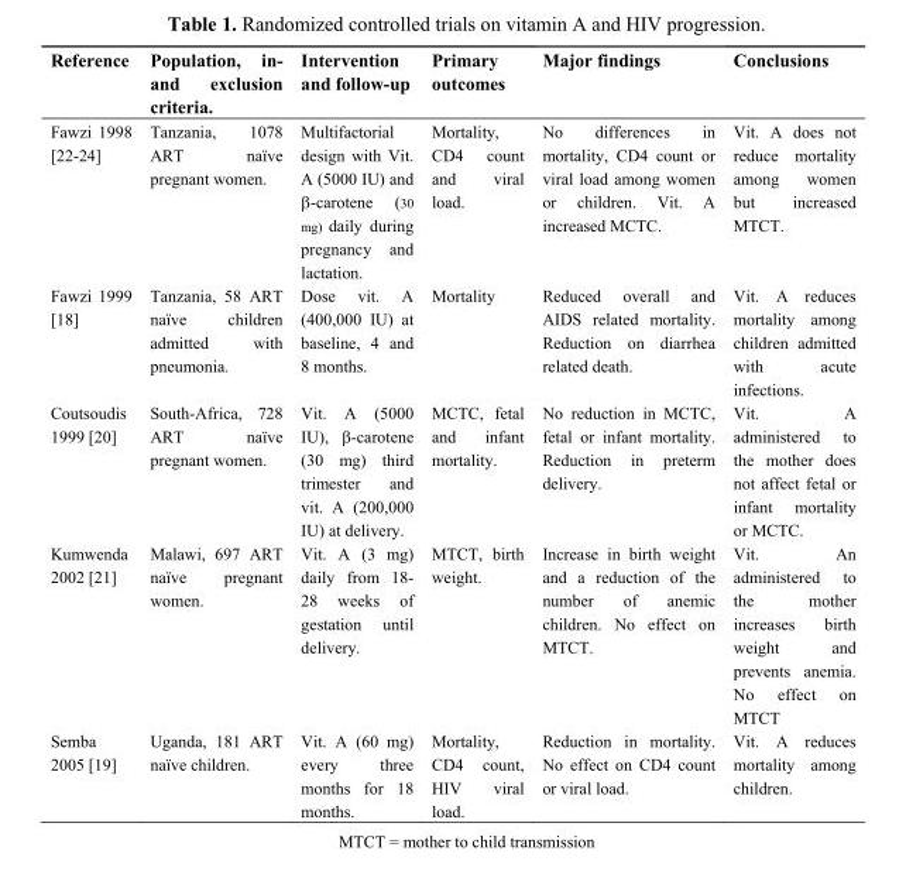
<table><thead><tr><td>Reference</td><td>Population, in- and exclusion criteria.</td><td>Intervention and follow-up</td><td>Primary outcomes</td><td>Major findings</td><td>Conclusions</td></tr></thead><tbody><tr><td>Fawzi 1998 [22-24]</td><td>Tanzania, 1078 ART naïve pregnant women.</td><td>Multifactorial design with Vit. A (5000 IU) and β-carotene (30 mg) daily during pregnancy and lactation.</td><td>Mortality, CD4 count and viral load.</td><td>No differences in mortality, CD4 count or viral load among women or children. Vit. A increased MCTC.</td><td>Vit. A does not reduce mortality among women but increased MTCT.</td></tr><tr><td>Fawzi 1999 [18]</td><td>Tanzania, 58 ART naïve children admitted with pneumonia.</td><td>Dose vit. A (400,000 IU) at baseline, 4 and 8 months.</td><td>Mortality</td><td>Reduced overall and AIDS related mortality. Reduction on diarrhea related death.</td><td>Vit. A reduces mortality among children admitted with acute infections.</td></tr><tr><td>Coutsoudis 1999 [20]</td><td>South-Africa, 728 ART naïve pregnant women.</td><td>Vit. A (5000 IU), β-carotene (30 mg) third trimester and vit. A (200,000 IU) at delivery.</td><td>MCTC, fetal and infant mortality.</td><td>No reduction in MCTC, fetal or infant mortality. Reduction in preterm delivery.</td><td>Vit. A administered to the mother does not affect fetal or infant mortality or MCTC.</td></tr><tr><td>Kumwenda 2002 [21]</td><td>Malawi, 697 ART naïve pregnant women.</td><td>Vit. A (3 mg) daily from 18- 28 weeks of gestation until delivery.</td><td>MTCT, birth weight.</td><td>Increase in birth weight and a reduction of the number of anemic children. No effect on MTCT.</td><td>Vit. An administered to the mother increases birth weight and prevents anemia. No effect on MTCT</td></tr><tr><td>Semba 2005 [19]</td><td>Uganda, 181 ART naïve children.</td><td>Vit. A (60 mg) every three months for 18 months.</td><td>Mortality, CD4 count, HIV viral load.</td><td>Reduction in mortality. No effect on CD4 count or viral load.</td><td>Vit. A reduces mortality among children.</td></tr></tbody></table>